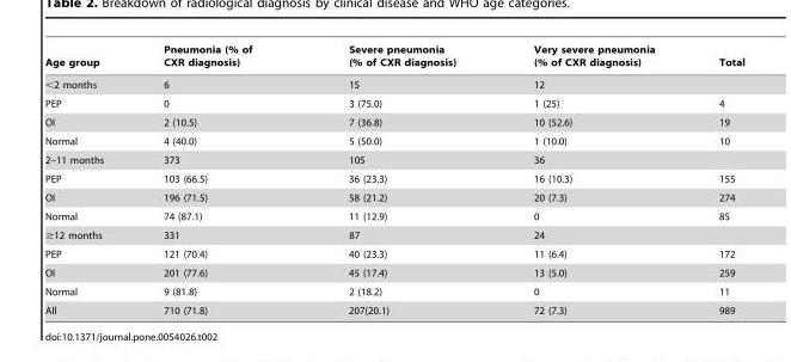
<table><thead><tr><td>Age group</td><td>Pneumonia (% of CXR diagnosis)</td><td>Severe pneumonia (% of CXR diagnosis)</td><td>Very severe pneumonia (% of CXR diagnosis)</td><td>Total</td></tr></thead><tbody><tr><td>&lt;2 months</td><td>6</td><td>15</td><td>12</td><td></td></tr><tr><td>PEP</td><td>0</td><td>3 (75.0)</td><td>1 (25)</td><td>4</td></tr><tr><td>OI</td><td>2 (10.5)</td><td>7 (36.8)</td><td>10 (52.6)</td><td>19</td></tr><tr><td>Normal</td><td>4 (40.0)</td><td>5 (50.0)</td><td>1 (10.0)</td><td>10</td></tr><tr><td>2–11 months</td><td>373</td><td>105</td><td>36</td><td></td></tr><tr><td>PEP</td><td>103 (66.5)</td><td>36 (23.3)</td><td>16 (10.3)</td><td>155</td></tr><tr><td>OI</td><td>196 (71.5)</td><td>58 (21.2)</td><td>20 (7.3)</td><td>274</td></tr><tr><td>Normal</td><td>74 (87.1)</td><td>11 (12.9)</td><td>0</td><td>85</td></tr><tr><td>≥12 months</td><td>331</td><td>87</td><td>24</td><td></td></tr><tr><td>PEP</td><td>121 (70.4)</td><td>40 (23.3)</td><td>11 (6.4)</td><td>172</td></tr><tr><td>OI</td><td>201 (77.6)</td><td>45 (17.4)</td><td>13 (5.0)</td><td>259</td></tr><tr><td>Normal</td><td>9 (81.8)</td><td>2 (18.2)</td><td>0</td><td>11</td></tr><tr><td>All</td><td>710 (71.8)</td><td>207(20.1)</td><td>72 (7.3)</td><td>989</td></tr></tbody></table>